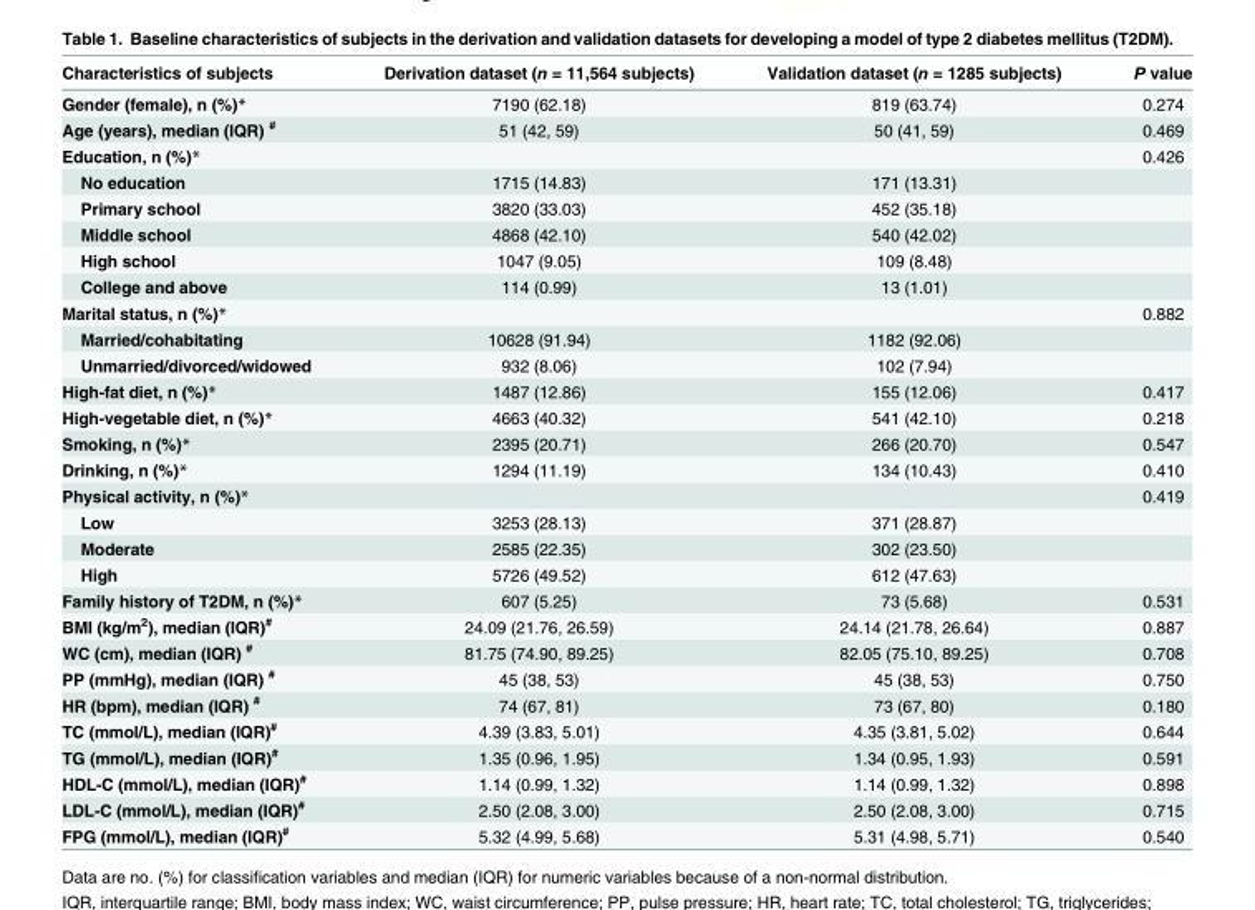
<table><thead><tr><td>Characteristics of subjects</td><td>Derivation dataset (n = 11,564 subjects)</td><td>Validation dataset (n = 1285 subjects)</td><td>P value</td></tr></thead><tbody><tr><td>Gender (female), n (%)*</td><td>7190 (62.18)</td><td>819 (63.74)</td><td>0.274</td></tr><tr><td>Age (years), median (IQR) <sup>#</sup></td><td>51 (42, 59)</td><td>50 (41, 59)</td><td>0.469</td></tr><tr><td>Education, n (%)*</td><td></td><td></td><td>0.426</td></tr><tr><td>No education</td><td>1715 (14.83)</td><td>171 (13.31)</td><td></td></tr><tr><td>Primary school</td><td>3820 (33.03)</td><td>452 (35.18)</td><td></td></tr><tr><td>Middle school</td><td>4868 (42.10)</td><td>540 (42.02)</td><td></td></tr><tr><td>High school</td><td>1047 (9.05)</td><td>109 (8.48)</td><td></td></tr><tr><td>College and above</td><td>114 (0.99)</td><td>13 (1.01)</td><td></td></tr><tr><td>Marital status, n (%)*</td><td></td><td></td><td>0.882</td></tr><tr><td>Married/cohabitating</td><td>10628 (91.94)</td><td>1182 (92.06)</td><td></td></tr><tr><td>Unmarried/divorced/widowed</td><td>932 (8.06)</td><td>102 (7.94)</td><td></td></tr><tr><td>High-fat diet, n (%)*</td><td>1487 (12.86)</td><td>155 (12.06)</td><td>0.417</td></tr><tr><td>High-vegetable diet, n (%)*</td><td>4663 (40.32)</td><td>541 (42.10)</td><td>0.218</td></tr><tr><td>Smoking, n (%)*</td><td>2395 (20.71)</td><td>266 (20.70)</td><td>0.547</td></tr><tr><td>Drinking, n (%)*</td><td>1294 (11.19)</td><td>134 (10.43)</td><td>0.410</td></tr><tr><td>Physical activity, n (%)*</td><td></td><td></td><td>0.419</td></tr><tr><td>Low</td><td>3253 (28.13)</td><td>371 (28.87)</td><td></td></tr><tr><td>Moderate</td><td>2585 (22.35)</td><td>302 (23.50)</td><td></td></tr><tr><td>High</td><td>5726 (49.52)</td><td>612 (47.63)</td><td></td></tr><tr><td>Family history of T2DM, n (%)*</td><td>607 (5.25)</td><td>73 (5.68)</td><td>0.531</td></tr><tr><td>BMI (kg/m<sup>2</sup>), median (IQR)<sup>#</sup></td><td>24.09 (21.76, 26.59)</td><td>24.14 (21.78, 26.64)</td><td>0.887</td></tr><tr><td>WC (cm), median (IQR) <sup>#</sup></td><td>81.75 (74.90, 89.25)</td><td>82.05 (75.10, 89.25)</td><td>0.708</td></tr><tr><td>PP (mmHg), median (IQR) <sup>#</sup></td><td>45 (38, 53)</td><td>45 (38, 53)</td><td>0.750</td></tr><tr><td>HR (bpm), median (IQR) <sup>#</sup></td><td>74 (67, 81)</td><td>73 (67, 80)</td><td>0.180</td></tr><tr><td>TC (mmol/L), median (IQR)<sup>#</sup></td><td>4.39 (3.83, 5.01)</td><td>4.35 (3.81, 5.02)</td><td>0.644</td></tr><tr><td>TG (mmol/L), median (IQR)<sup>#</sup></td><td>1.35 (0.96, 1.95)</td><td>1.34 (0.95, 1.93)</td><td>0.591</td></tr><tr><td>HDL-C (mmol/L), median (IQR)<sup>#</sup></td><td>1.14 (0.99, 1.32)</td><td>1.14 (0.99, 1.32)</td><td>0.898</td></tr><tr><td>LDL-C (mmol/L), median (IQR)<sup>#</sup></td><td>2.50 (2.08, 3.00)</td><td>2.50 (2.08, 3.00)</td><td>0.715</td></tr><tr><td>FPG (mmol/L), median (IQR)<sup>#</sup></td><td>5.32 (4.99, 5.68)</td><td>5.31 (4.98, 5.71)</td><td>0.540</td></tr></tbody></table>